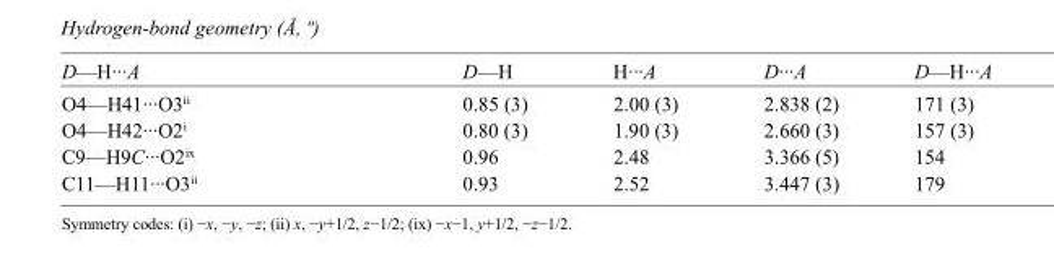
<table><tbody><tr><td>D—H···A</td><td>D—H</td><td>H···A</td><td>D···A</td><td>D—H···A</td></tr><tr><td>O4—H41···O3<sup>ii</sup></td><td>0.85 (3)</td><td>2.00 (3)</td><td>2.838 (2)</td><td>171 (3)</td></tr><tr><td>O4—H42···O2<sup>i</sup></td><td>0.80 (3)</td><td>1.90 (3)</td><td>2.660 (3)</td><td>157 (3)</td></tr><tr><td>C9—H9C···O2<sup>ix</sup></td><td>0.96</td><td>2.48</td><td>3.366 (5)</td><td>154</td></tr><tr><td>C11—H11···O3<sup>ii</sup></td><td>0.93</td><td>2.52</td><td>3.447 (3)</td><td>179</td></tr></tbody></table>